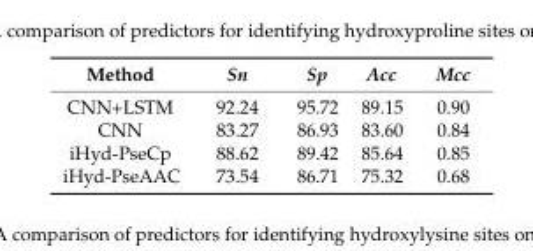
<table><thead><tr><td>Method</td><td>Sn</td><td>Sp</td><td>Acc</td><td>Mcc</td></tr></thead><tbody><tr><td>CNN+LSTM</td><td>92.24</td><td>95.72</td><td>89.15</td><td>0.90</td></tr><tr><td>CNN</td><td>83.27</td><td>86.93</td><td>83.60</td><td>0.84</td></tr><tr><td>iHyd-PseCp</td><td>88.62</td><td>89.42</td><td>85.64</td><td>0.85</td></tr><tr><td>iHyd-PseAAC</td><td>73.54</td><td>86.71</td><td>75.32</td><td>0.68</td></tr></tbody></table>